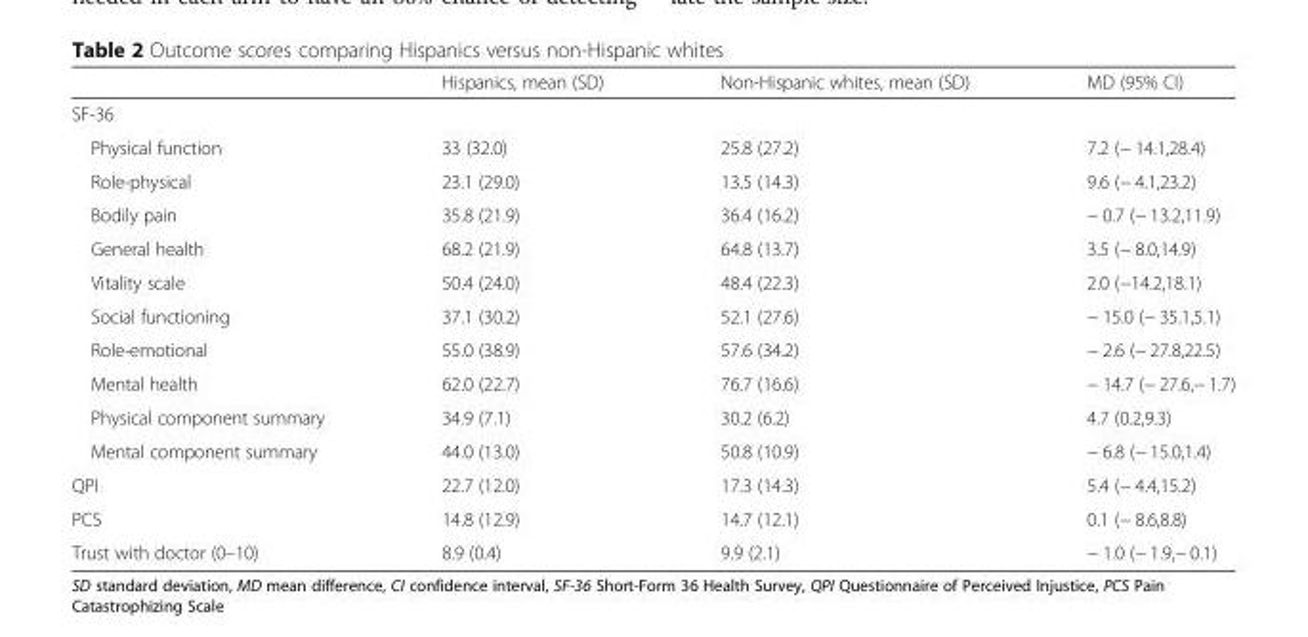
<table><thead><tr><td></td><td>Hispanics, mean (SD)</td><td>Non-Hispanic whites, mean (SD)</td><td>MD (95% CI)</td></tr></thead><tbody><tr><td colspan="4">SF-36</td></tr><tr><td>Physical function</td><td>33 (32.0)</td><td>25.8 (27.2)</td><td>7.2 (− 14.1,28.4)</td></tr><tr><td>Role-physical</td><td>23.1 (29.0)</td><td>13.5 (14.3)</td><td>9.6 (− 4.1,23.2)</td></tr><tr><td>Bodily pain</td><td>35.8 (21.9)</td><td>36.4 (16.2)</td><td>− 0.7 (− 13.2,11.9)</td></tr><tr><td>General health</td><td>68.2 (21.9)</td><td>64.8 (13.7)</td><td>3.5 (− 8.0,14.9)</td></tr><tr><td>Vitality scale</td><td>50.4 (24.0)</td><td>48.4 (22.3)</td><td>2.0 (−14.2,18.1)</td></tr><tr><td>Social functioning</td><td>37.1 (30.2)</td><td>52.1 (27.6)</td><td>− 15.0 (− 35.1,5.1)</td></tr><tr><td>Role-emotional</td><td>55.0 (38.9)</td><td>57.6 (34.2)</td><td>− 2.6 (− 27.8,22.5)</td></tr><tr><td>Mental health</td><td>62.0 (22.7)</td><td>76.7 (16.6)</td><td>− 14.7 (− 27.6,− 1.7)</td></tr><tr><td>Physical component summary</td><td>34.9 (7.1)</td><td>30.2 (6.2)</td><td>4.7 (0.2,9.3)</td></tr><tr><td>Mental component summary</td><td>44.0 (13.0)</td><td>50.8 (10.9)</td><td>− 6.8 (− 15.0,1.4)</td></tr><tr><td>QPI</td><td>22.7 (12.0)</td><td>17.3 (14.3)</td><td>5.4 (− 4.4,15.2)</td></tr><tr><td>PCS</td><td>14.8 (12.9)</td><td>14.7 (12.1)</td><td>0.1 (− 8.6,8.8)</td></tr><tr><td>Trust with doctor (0–10)</td><td>8.9 (0.4)</td><td>9.9 (2.1)</td><td>− 1.0 (− 1.9,− 0.1)</td></tr></tbody></table>